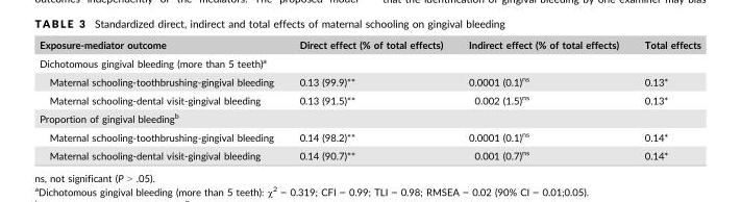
<table><thead><tr><td>Exposure-mediator outcome</td><td>Direct effect (% of total effects)</td><td>Indirect effect (% of total effects)</td><td>Total effects</td></tr></thead><tbody><tr><td colspan="4">Dichotomous gingival bleeding (more than 5 teeth)<sup>a</sup></td></tr><tr><td>Maternal schooling-toothbrushing-gingival bleeding</td><td>0.13 (99.9)**</td><td>0.0001 (0.1)<sup>ns</sup></td><td>0.13*</td></tr><tr><td>Maternal schooling-dental visit-gingival bleeding</td><td>0.13 (91.5)**</td><td>0.002 (1.5)<sup>ns</sup></td><td>0.13*</td></tr><tr><td colspan="4">Proportion of gingival bleeding<sup>b</sup></td></tr><tr><td>Maternal schooling-toothbrushing-gingival bleeding</td><td>0.14 (98.2)**</td><td>0.0001 (0.1)<sup>ns</sup></td><td>0.14*</td></tr><tr><td>Maternal schooling-dental visit-gingival bleeding</td><td>0.14 (90.7)**</td><td>0.001 (0.7)<sup>ns</sup></td><td>0.14*</td></tr></tbody></table>